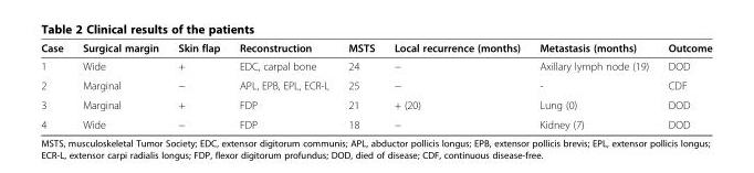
<table><thead><tr><td>Case</td><td>Surgical margin</td><td>Skin flap</td><td>Reconstruction</td><td>MSTS</td><td>Local recurrence (months)</td><td>Metastasis (months)</td><td>Outcome</td></tr></thead><tbody><tr><td>1</td><td>Wide</td><td>+</td><td>EDC, carpal bone</td><td>24</td><td>−</td><td>Axillary lymph node (19)</td><td>DOD</td></tr><tr><td>2</td><td>Marginal</td><td>−</td><td>APL, EPB, EPL, ECR-L</td><td>25</td><td>−</td><td>-</td><td>CDF</td></tr><tr><td>3</td><td>Marginal</td><td>+</td><td>FDP</td><td>21</td><td>+ (20)</td><td>Lung (0)</td><td>DOD</td></tr><tr><td>4</td><td>Wide</td><td>−</td><td>FDP</td><td>18</td><td>−</td><td>Kidney (7)</td><td>DOD</td></tr></tbody></table>